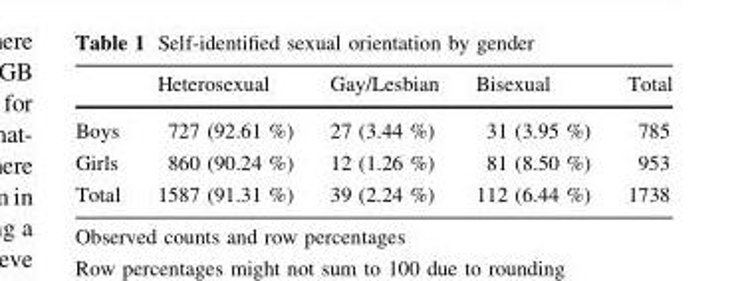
<table><thead><tr><td></td><td>Heterosexual</td><td>Gay/Lesbian</td><td>Bisexual</td><td>Total</td></tr></thead><tbody><tr><td>Boys</td><td>727 (92.61 %)</td><td>27 (3.44 %)</td><td>31 (3.95 %)</td><td>785</td></tr><tr><td>Girls</td><td>860 (90.24 %)</td><td>12 (1.26 %)</td><td>81 (8.50 %)</td><td>953</td></tr><tr><td>Total</td><td>1587 (91.31 %)</td><td>39 (2.24 %)</td><td>112 (6.44 %)</td><td>1738</td></tr></tbody></table>